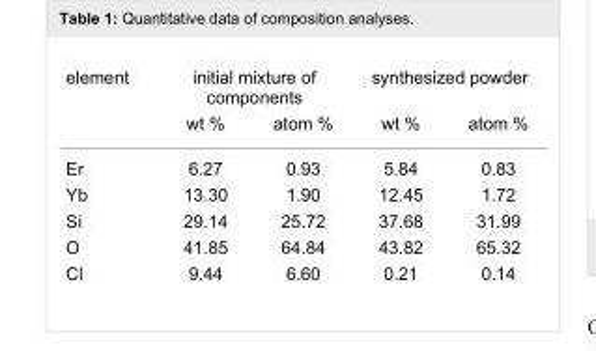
<table><tbody><tr><td rowspan="2">element</td><td colspan="2">initial mixture of components</td><td colspan="2">synthesized powder</td></tr><tr><td>wt %</td><td>atom %</td><td>wt %</td><td>atom %</td></tr><tr><td>Er</td><td>6.27</td><td>0.93</td><td>5.84</td><td>0.83</td></tr><tr><td>Yb</td><td>13.30</td><td>1.90</td><td>12.45</td><td>1.72</td></tr><tr><td>Si</td><td>29.14</td><td>25.72</td><td>37.68</td><td>31.99</td></tr><tr><td>O</td><td>41.85</td><td>64.84</td><td>43.82</td><td>65.32</td></tr><tr><td>Cl</td><td>9.44</td><td>6.60</td><td>0.21</td><td>0.14</td></tr></tbody></table>